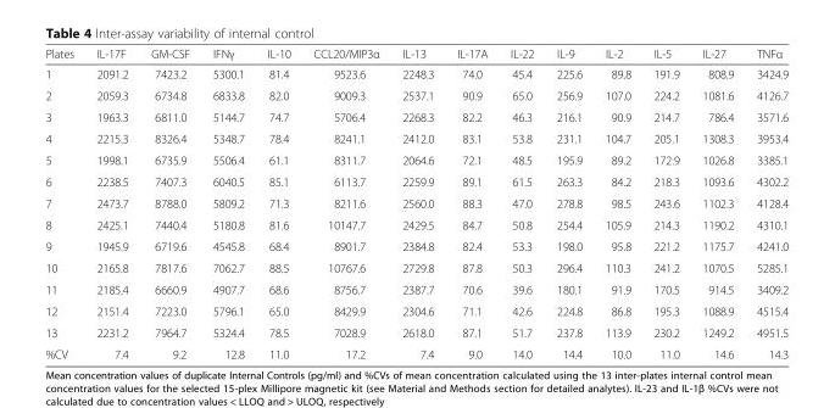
<table><thead><tr><td>Plates</td><td>IL-17F</td><td>GM-CSF</td><td>IFNγ</td><td>IL-10</td><td>CCL20/MIP3α</td><td>IL-13</td><td>IL-17A</td><td>IL-22</td><td>IL-9</td><td>IL-2</td><td>IL-5</td><td>IL-27</td><td>TNFα</td></tr></thead><tbody><tr><td>1</td><td>2091.2</td><td>7423.2</td><td>5300.1</td><td>81.4</td><td>9523.6</td><td>2248.3</td><td>74.0</td><td>45.4</td><td>225.6</td><td>89.8</td><td>191.9</td><td>808.9</td><td>3424.9</td></tr><tr><td>2</td><td>2059.3</td><td>6734.8</td><td>6833.8</td><td>82.0</td><td>9009.3</td><td>2537.1</td><td>90.9</td><td>65.0</td><td>256.9</td><td>107.0</td><td>224.2</td><td>1081.6</td><td>4126.7</td></tr><tr><td>3</td><td>1963.3</td><td>6811.0</td><td>5144.7</td><td>74.7</td><td>5706.4</td><td>2268.3</td><td>82.2</td><td>46.3</td><td>216.1</td><td>90.9</td><td>214.7</td><td>786.4</td><td>3571.6</td></tr><tr><td>4</td><td>2215.3</td><td>8326.4</td><td>5348.7</td><td>78.4</td><td>8241.1</td><td>2412.0</td><td>83.1</td><td>53.8</td><td>231.1</td><td>104.7</td><td>205.1</td><td>1308.3</td><td>3953.4</td></tr><tr><td>5</td><td>1998.1</td><td>6735.9</td><td>5506.4</td><td>61.1</td><td>8311.7</td><td>2064.6</td><td>72.1</td><td>48.5</td><td>195.9</td><td>89.2</td><td>172.9</td><td>1026.8</td><td>3385.1</td></tr><tr><td>6</td><td>2238.5</td><td>7407.3</td><td>6040.5</td><td>85.1</td><td>6113.7</td><td>2259.9</td><td>89.1</td><td>61.5</td><td>263.3</td><td>84.2</td><td>218.3</td><td>1093.6</td><td>4302.2</td></tr><tr><td>7</td><td>2473.7</td><td>8788.0</td><td>5809.2</td><td>71.3</td><td>8211.6</td><td>2560.0</td><td>88.3</td><td>47.0</td><td>278.8</td><td>98.5</td><td>243.6</td><td>1102.3</td><td>4128.4</td></tr><tr><td>8</td><td>2425.1</td><td>7440.4</td><td>5180.8</td><td>81.6</td><td>10147.7</td><td>2429.5</td><td>84.7</td><td>50.8</td><td>254.4</td><td>105.9</td><td>214.3</td><td>1190.2</td><td>4310.1</td></tr><tr><td>9</td><td>1945.9</td><td>6719.6</td><td>4545.8</td><td>68.4</td><td>8901.7</td><td>2384.8</td><td>82.4</td><td>53.3</td><td>198.0</td><td>95.8</td><td>221.2</td><td>1175.7</td><td>4241.0</td></tr><tr><td>10</td><td>2165.8</td><td>7817.6</td><td>7062.7</td><td>88.5</td><td>10767.6</td><td>2729.8</td><td>87.8</td><td>50.3</td><td>296.4</td><td>110.3</td><td>241.2</td><td>1070.5</td><td>5285.1</td></tr><tr><td>11</td><td>2185.4</td><td>6660.9</td><td>4907.7</td><td>68.6</td><td>8756.7</td><td>2387.7</td><td>70.6</td><td>39.6</td><td>180.1</td><td>91.9</td><td>170.5</td><td>914.5</td><td>3409.2</td></tr><tr><td>12</td><td>2151.4</td><td>7223.0</td><td>5796.1</td><td>65.0</td><td>8429.9</td><td>2304.6</td><td>71.1</td><td>42.6</td><td>224.8</td><td>86.8</td><td>195.3</td><td>1088.9</td><td>4515.4</td></tr><tr><td>13</td><td>2231.2</td><td>7964.7</td><td>5324.4</td><td>78.5</td><td>7028.9</td><td>2618.0</td><td>87.1</td><td>51.7</td><td>237.8</td><td>113.9</td><td>230.2</td><td>1249.2</td><td>4951.5</td></tr><tr><td>%CV</td><td>7.4</td><td>9.2</td><td>12.8</td><td>11.0</td><td>17.2</td><td>7.4</td><td>9.0</td><td>14.0</td><td>14.4</td><td>10.0</td><td>11.0</td><td>14.6</td><td>14.3</td></tr></tbody></table>